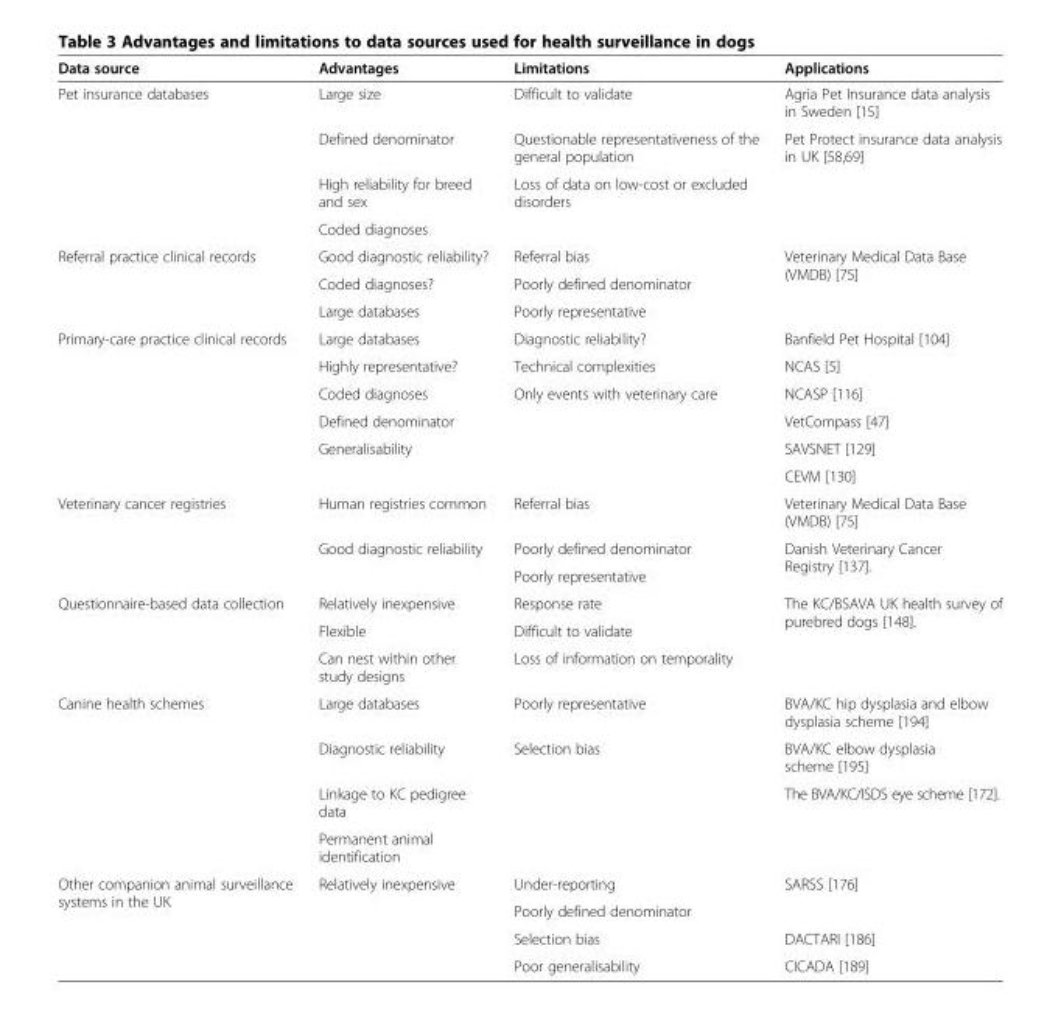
<table><thead><tr><td>Data source</td><td>Advantages</td><td>Limitations</td><td>Applications</td></tr></thead><tbody><tr><td rowspan="4">Pet insurance databases</td><td>Large size</td><td>Difficult to validate</td><td>Agria Pet Insurance data analysis in Sweden [15]</td></tr><tr><td>Defined denominator</td><td>Questionable representativeness of the general population</td><td rowspan="3">Pet Protect insurance data analysis in UK [58,69]</td></tr><tr><td>High reliability for breed and sex</td><td rowspan="2">Loss of data on low-cost or excluded disorders</td></tr><tr><td>Coded diagnoses</td></tr><tr><td rowspan="3">Referral practice clinical records</td><td>Good diagnostic reliability?</td><td>Referral bias</td><td rowspan="3">Veterinary Medical Data Base (VMDB) [75]</td></tr><tr><td>Coded diagnoses?</td><td>Poorly defined denominator</td></tr><tr><td>Large databases</td><td>Poorly representative</td></tr><tr><td rowspan="6">Primary-care practice clinical records</td><td>Large databases</td><td>Diagnostic reliability?</td><td>Banfield Pet Hospital [104]</td></tr><tr><td>Highly representative?</td><td>Technical complexities</td><td>NCAS [5]</td></tr><tr><td>Coded diagnoses</td><td rowspan="4">Only events with veterinary care</td><td>NCASP [116]</td></tr><tr><td>Defined denominator</td><td>VetCompass [47]</td></tr><tr><td rowspan="2">Generalisability</td><td>SAVSNET [129]</td></tr><tr><td>CEVM [130]</td></tr><tr><td rowspan="3">Veterinary cancer registries</td><td>Human registries common</td><td>Referral bias</td><td>Veterinary Medical Data Base (VMDB) [75]</td></tr><tr><td rowspan="2">Good diagnostic reliability</td><td>Poorly defined denominator</td><td rowspan="2">Danish Veterinary Cancer Registry [137].</td></tr><tr><td>Poorly representative</td></tr><tr><td rowspan="3">Questionnaire-based data collection</td><td>Relatively inexpensive</td><td>Response rate</td><td rowspan="3">The KC/BSAVA UK health survey of purebred dogs [148].</td></tr><tr><td>Flexible</td><td>Difficult to validate</td></tr><tr><td>Can nest within other study designs</td><td>Loss of information on temporality</td></tr><tr><td rowspan="4">Canine health schemes</td><td>Large databases</td><td>Poorly representative</td><td>BVA/KC hip dysplasia and elbow dysplasia scheme [194]</td></tr><tr><td>Diagnostic reliability</td><td rowspan="3">Selection bias</td><td>BVA/KC elbow dysplasia scheme [195]</td></tr><tr><td>Linkage to KC pedigree data</td><td rowspan="2">The BVA/KC/ISDS eye scheme [172].</td></tr><tr><td>Permanent animal identification</td></tr><tr><td rowspan="4">Other companion animal surveillance systems in the UK</td><td rowspan="4">Relatively inexpensive</td><td>Under-reporting</td><td>SARSS [176]</td></tr><tr><td>Poorly defined denominator</td><td></td></tr><tr><td>Selection bias</td><td>DACTARI [186]</td></tr><tr><td>Poor generalisability</td><td>CICADA [189]</td></tr></tbody></table>